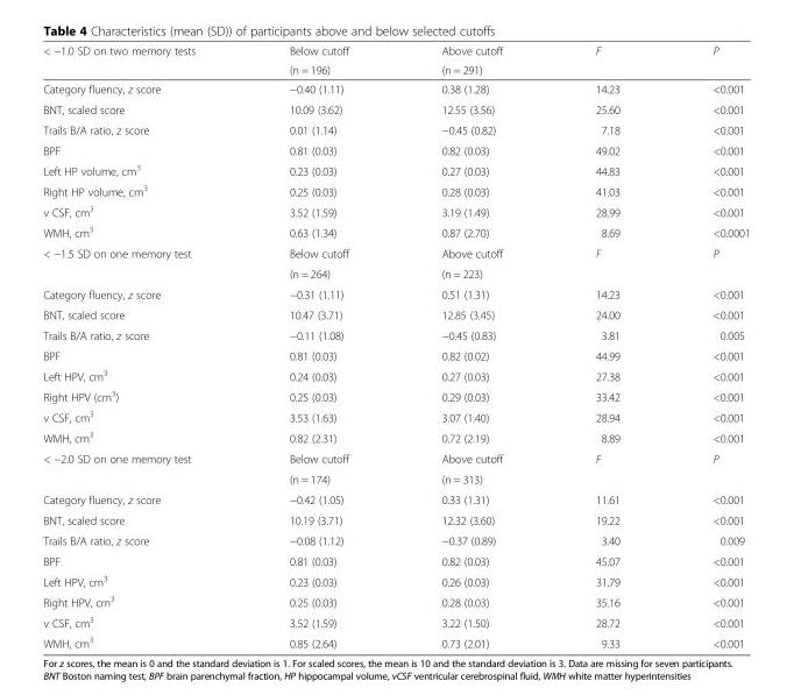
<table><thead><tr><td rowspan="2">&lt; −1.0 SD on two memory tests</td><td rowspan="2">Below cutoff (n = 196)</td><td rowspan="2">Above cutoff (n = 291)</td><td rowspan="2">F</td><td rowspan="2">P</td></tr><tr></tr></thead><tbody><tr><td>Category fluency, z score</td><td>−0.40 (1.11)</td><td>0.38 (1.28)</td><td>14.23</td><td>&lt;0.001</td></tr><tr><td>BNT, scaled score</td><td>10.09 (3.62)</td><td>12.55 (3.56)</td><td>25.60</td><td>&lt;0.001</td></tr><tr><td>Trails B/A ratio, z score</td><td>0.01 (1.14)</td><td>−0.45 (0.82)</td><td>7.18</td><td>&lt;0.001</td></tr><tr><td>BPF</td><td>0.81 (0.03)</td><td>0.82 (0.03)</td><td>49.02</td><td>&lt;0.001</td></tr><tr><td>Left HP volume, cm<sup>3</sup></td><td>0.23 (0.03)</td><td>0.27 (0.03)</td><td>44.83</td><td>&lt;0.001</td></tr><tr><td>Right HP volume, cm<sup>3</sup></td><td>0.25 (0.03)</td><td>0.28 (0.03)</td><td>41.03</td><td>&lt;0.001</td></tr><tr><td>v CSF, cm<sup>3</sup></td><td>3.52 (1.59)</td><td>3.19 (1.49)</td><td>28.99</td><td>&lt;0.001</td></tr><tr><td>WMH, cm<sup>3</sup></td><td>0.63 (1.34)</td><td>0.87 (2.70)</td><td>8.69</td><td>&lt;0.0001</td></tr><tr><td rowspan="2">&lt; −1.5 SD on one memory test</td><td>Below cutoff</td><td>Above cutoff</td><td rowspan="2">F</td><td rowspan="2">P</td></tr><tr><td>(n = 264)</td><td>(n = 223)</td></tr><tr><td>Category fluency, z score</td><td>−0.31 (1.11)</td><td>0.51 (1.31)</td><td>14.23</td><td>&lt;0.001</td></tr><tr><td>BNT, scaled score</td><td>10.47 (3.71)</td><td>12.85 (3.45)</td><td>24.00</td><td>&lt;0.001</td></tr><tr><td>Trails B/A ratio, z score</td><td>−0.11 (1.08)</td><td>−0.45 (0.83)</td><td>3.81</td><td>0.005</td></tr><tr><td>BPF</td><td>0.81 (0.03)</td><td>0.82 (0.02)</td><td>44.99</td><td>&lt;0.001</td></tr><tr><td>Left HPV, cm<sup>3</sup></td><td>0.24 (0.03)</td><td>0.27 (0.03)</td><td>27.38</td><td>&lt;0.001</td></tr><tr><td>Right HPV (cm<sup>3</sup>)</td><td>0.25 (0.03)</td><td>0.29 (0.03)</td><td>33.42</td><td>&lt;0.001</td></tr><tr><td>v CSF, cm<sup>3</sup></td><td>3.53 (1.63)</td><td>3.07 (1.40)</td><td>28.94</td><td>&lt;0.001</td></tr><tr><td>WMH, cm<sup>3</sup></td><td>0.82 (2.31)</td><td>0.72 (2.19)</td><td>8.89</td><td>&lt;0.001</td></tr><tr><td rowspan="2">&lt; −2.0 SD on one memory test</td><td>Below cutoff</td><td>Above cutoff</td><td rowspan="2">F</td><td rowspan="2">P</td></tr><tr><td>(n = 174)</td><td>(n = 313)</td></tr><tr><td>Category fluency, z score</td><td>−0.42 (1.05)</td><td>0.33 (1.31)</td><td>11.61</td><td>&lt;0.001</td></tr><tr><td>BNT, scaled score</td><td>10.19 (3.71)</td><td>12.32 (3.60)</td><td>19.22</td><td>&lt;0.001</td></tr><tr><td>Trails B/A ratio, z score</td><td>−0.08 (1.12)</td><td>−0.37 (0.89)</td><td>3.40</td><td>0.009</td></tr><tr><td>BPF</td><td>0.81 (0.03)</td><td>0.82 (0.03)</td><td>45.07</td><td>&lt;0.001</td></tr><tr><td>Left HPV, cm<sup>3</sup></td><td>0.23 (0.03)</td><td>0.26 (0.03)</td><td>31.79</td><td>&lt;0.001</td></tr><tr><td>Right HPV, cm<sup>3</sup></td><td>0.25 (0.03)</td><td>0.28 (0.03)</td><td>35.16</td><td>&lt;0.001</td></tr><tr><td>v CSF, cm<sup>3</sup></td><td>3.52 (1.59)</td><td>3.22 (1.50)</td><td>28.72</td><td>&lt;0.001</td></tr><tr><td>WMH, cm<sup>3</sup></td><td>0.85 (2.64)</td><td>0.73 (2.01)</td><td>9.33</td><td>&lt;0.001</td></tr></tbody></table>